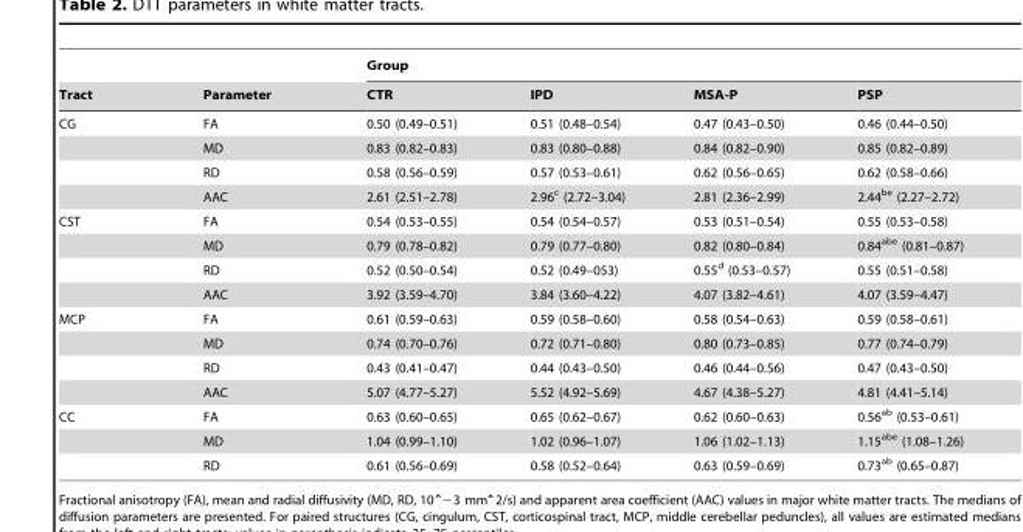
<table><thead><tr><td rowspan="2">Tract</td><td rowspan="2">Parameter</td><td colspan="4">Group</td></tr><tr><td>CTR</td><td>IPD</td><td>MSA-P</td><td>PSP</td></tr></thead><tbody><tr><td rowspan="4">CG</td><td>FA</td><td>0.50 (0.49–0.51)</td><td>0.51 (0.48–0.54)</td><td>0.47 (0.43–0.50)</td><td>0.46 (0.44–0.50)</td></tr><tr><td>MD</td><td>0.83 (0.82–0.83)</td><td>0.83 (0.80–0.88)</td><td>0.84 (0.82–0.90)</td><td>0.85 (0.82–0.89)</td></tr><tr><td>RD</td><td>0.58 (0.56–0.59)</td><td>0.57 (0.53–0.61)</td><td>0.62 (0.56–0.65)</td><td>0.62 (0.58–0.66)</td></tr><tr><td>AAC</td><td>2.61 (2.51–2.78)</td><td>2.96<sup>c</sup> (2.72–3.04)</td><td>2.81 (2.36–2.99)</td><td>2.44<sup>be</sup> (2.27–2.72)</td></tr><tr><td rowspan="4">CST</td><td>FA</td><td>0.54 (0.53–0.55)</td><td>0.54 (0.54–0.57)</td><td>0.53 (0.51–0.54)</td><td>0.55 (0.53–0.58)</td></tr><tr><td>MD</td><td>0.79 (0.78–0.82)</td><td>0.79 (0.77–0.80)</td><td>0.82 (0.80–0.84)</td><td>0.84<sup>abe</sup> (0.81–0.87)</td></tr><tr><td>RD</td><td>0.52 (0.50–0.54)</td><td>0.52 (0.49–053)</td><td>0.55<sup>d</sup> (0.53–0.57)</td><td>0.55 (0.51–0.58)</td></tr><tr><td>AAC</td><td>3.92 (3.59–4.70)</td><td>3.84 (3.60–4.22)</td><td>4.07 (3.82–4.61)</td><td>4.07 (3.59–4.47)</td></tr><tr><td rowspan="4">MCP</td><td>FA</td><td>0.61 (0.59–0.63)</td><td>0.59 (0.58–0.60)</td><td>0.58 (0.54–0.63)</td><td>0.59 (0.58–0.61)</td></tr><tr><td>MD</td><td>0.74 (0.70–0.76)</td><td>0.72 (0.71–0.80)</td><td>0.80 (0.73–0.85)</td><td>0.77 (0.74–0.79)</td></tr><tr><td>RD</td><td>0.43 (0.41–0.47)</td><td>0.44 (0.43–0.50)</td><td>0.46 (0.44–0.56)</td><td>0.47 (0.43–0.50)</td></tr><tr><td>AAC</td><td>5.07 (4.77–5.27)</td><td>5.52 (4.92–5.69)</td><td>4.67 (4.38–5.27)</td><td>4.81 (4.41–5.14)</td></tr><tr><td rowspan="3">CC</td><td>FA</td><td>0.63 (0.60–0.65)</td><td>0.65 (0.62–0.67)</td><td>0.62 (0.60–0.63)</td><td>0.56<sup>ab</sup> (0.53–0.61)</td></tr><tr><td>MD</td><td>1.04 (0.99–1.10)</td><td>1.02 (0.96–1.07)</td><td>1.06 (1.02–1.13)</td><td>1.15<sup>abe</sup> (1.08–1.26)</td></tr><tr><td>RD</td><td>0.61 (0.56–0.69)</td><td>0.58 (0.52–0.64)</td><td>0.63 (0.59–0.69)</td><td>0.73<sup>ab</sup> (0.65–0.87)</td></tr></tbody></table>